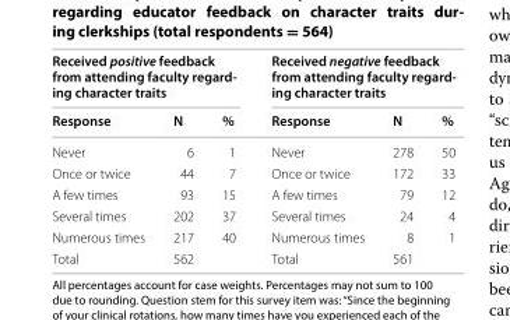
<table><thead><tr><td colspan="3">Received positive feedback from attending faculty regard- ing character traits</td><td colspan="3">Received negative feedback from attending faculty regard- ing character traits</td></tr><tr><td>Response</td><td>N</td><td>%</td><td>Response</td><td>N</td><td>%</td></tr></thead><tbody><tr><td>Never</td><td>6</td><td>1</td><td>Never</td><td>278</td><td>50</td></tr><tr><td>Once or twice</td><td>44</td><td>7</td><td>Once or twice</td><td>172</td><td>33</td></tr><tr><td>A few times</td><td>93</td><td>15</td><td>A few times</td><td>79</td><td>12</td></tr><tr><td>Several times</td><td>202</td><td>37</td><td>Several times</td><td>24</td><td>4</td></tr><tr><td>Numerous times</td><td>217</td><td>40</td><td>Numerous times</td><td>8</td><td>1</td></tr><tr><td>Total</td><td>562</td><td></td><td>Total</td><td>561</td><td></td></tr></tbody></table>